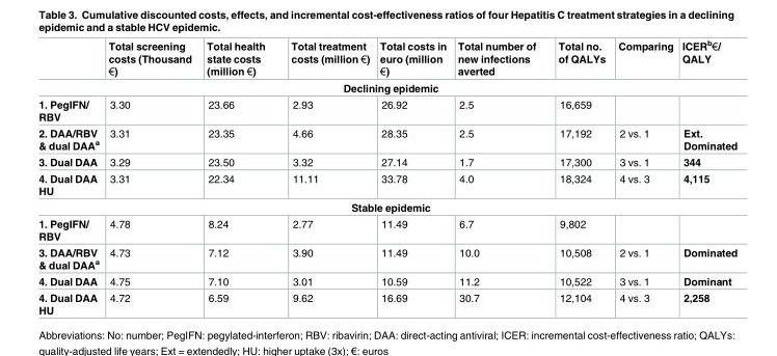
<table><thead><tr><td></td><td>Total screening costs (Thousand €)</td><td>Total health state costs (million €)</td><td>Total treatment costs (million €)</td><td>Total costs in euro (million €)</td><td>Total number of new infections averted</td><td>Total no. of QALYs</td><td>Comparing</td><td>ICER<sup>b</sup>€/ QALY</td></tr></thead><tbody><tr><td colspan="9">Declining epidemic</td></tr><tr><td>1. PegIFN/ RBV</td><td>3.30</td><td>23.66</td><td>2.93</td><td>26.92</td><td>2.5</td><td>16,659</td><td></td><td></td></tr><tr><td>2. DAA/RBV &amp; dual DAA<sup>a</sup></td><td>3.31</td><td>23.35</td><td>4.66</td><td>28.35</td><td>2.5</td><td>17,192</td><td>2 vs. 1</td><td>Ext. Dominated</td></tr><tr><td>3. Dual DAA</td><td>3.29</td><td>23.50</td><td>3.32</td><td>27.14</td><td>1.7</td><td>17,300</td><td>3 vs. 1</td><td>344</td></tr><tr><td>4. Dual DAA HU</td><td>3.31</td><td>22.34</td><td>11.11</td><td>33.78</td><td>4.0</td><td>18,324</td><td>4 vs. 3</td><td>4,115</td></tr><tr><td colspan="9">Stable epidemic</td></tr><tr><td>1. PegIFN/ RBV</td><td>4.78</td><td>8.24</td><td>2.77</td><td>11.49</td><td>6.7</td><td>9,802</td><td></td><td></td></tr><tr><td>3. DAA/RBV &amp; dual DAA<sup>a</sup></td><td>4.73</td><td>7.12</td><td>3.90</td><td>11.49</td><td>10.0</td><td>10,508</td><td>2 vs. 1</td><td>Dominated</td></tr><tr><td>4. Dual DAA</td><td>4.75</td><td>7.10</td><td>3.01</td><td>10.59</td><td>11.2</td><td>10,522</td><td>3 vs. 1</td><td>Dominant</td></tr><tr><td>4. Dual DAA HU</td><td>4.72</td><td>6.59</td><td>9.62</td><td>16.69</td><td>30.7</td><td>12,104</td><td>4 vs. 3</td><td>2,258</td></tr></tbody></table>